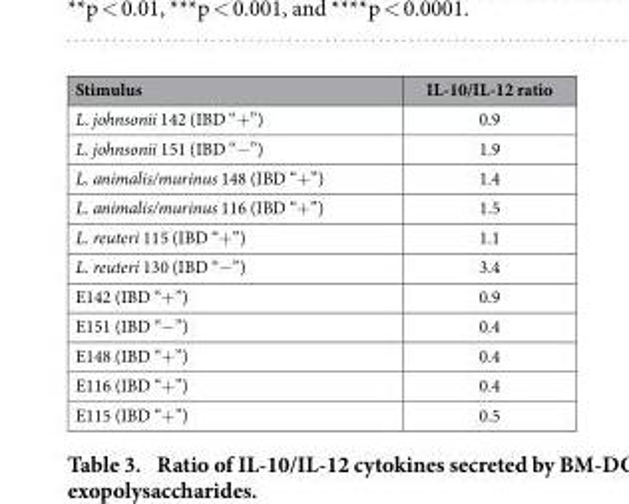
<table><thead><tr><td>Stimulus</td><td>IL-10/IL-12 ratio</td></tr></thead><tbody><tr><td>L. johnsonii 142 (IBD “+ ”)</td><td>0.9</td></tr><tr><td>L. johnsonii 151 (IBD “− ”)</td><td>1.9</td></tr><tr><td>L. animalis/murinus 148 (IBD “+ ”)</td><td>1.4</td></tr><tr><td>L. animalis/murinus 116 (IBD “+ ”)</td><td>1.5</td></tr><tr><td>L. reuteri 115 (IBD “+ ”)</td><td>1.1</td></tr><tr><td>L. reuteri 130 (IBD “− ”)</td><td>3.4</td></tr><tr><td>E142 (IBD “+ ”)</td><td>0.9</td></tr><tr><td>E151 (IBD “− ”)</td><td>0.4</td></tr><tr><td>E148 (IBD “+ ”)</td><td>0.4</td></tr><tr><td>E116 (IBD “+ ”)</td><td>0.4</td></tr><tr><td>E115 (IBD “+ ”)</td><td>0.5</td></tr></tbody></table>